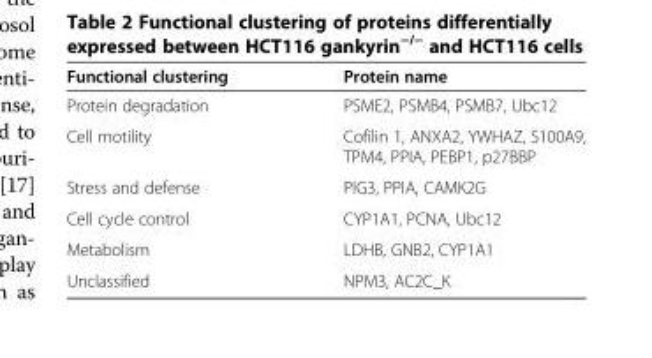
<table><thead><tr><td>Functional clustering</td><td>Protein name</td></tr></thead><tbody><tr><td>Protein degradation</td><td>PSME2, PSMB4, PSMB7, Ubc12</td></tr><tr><td>Cell motility</td><td>Cofilin 1, ANXA2, YWHAZ, S100A9, TPM4, PPIA, PEBP1, p27BBP</td></tr><tr><td>Stress and defense</td><td>PIG3, PPIA, CAMK2G</td></tr><tr><td>Cell cycle control</td><td>CYP1A1, PCNA, Ubc12</td></tr><tr><td>Metabolism</td><td>LDHB, GNB2, CYP1A1</td></tr><tr><td>Unclassified</td><td>NPM3, AC2C_K</td></tr></tbody></table>